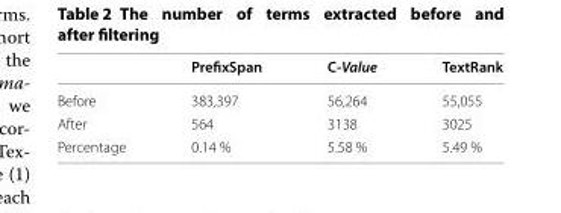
<table><thead><tr><td></td><td>PrefixSpan</td><td>C‑Value</td><td>TextRank</td></tr></thead><tbody><tr><td>Before</td><td>383,397</td><td>56,264</td><td>55,055</td></tr><tr><td>After</td><td>564</td><td>3138</td><td>3025</td></tr><tr><td>Percentage</td><td>0.14 %</td><td>5.58 %</td><td>5.49 %</td></tr></tbody></table>